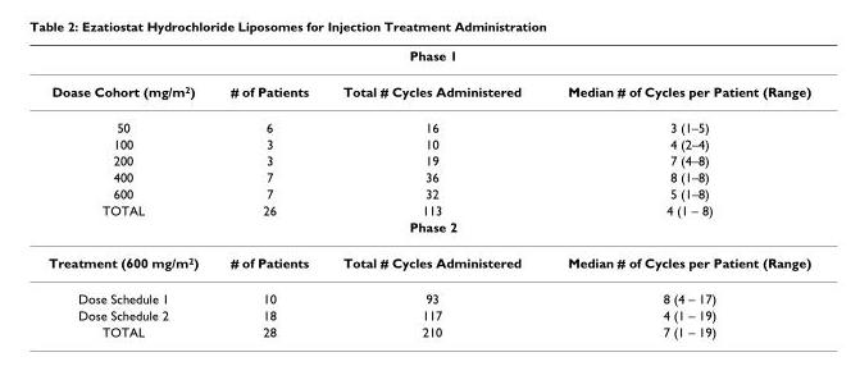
<table><thead><tr><td colspan="4">Phase 1</td></tr><tr><td>Doase Cohort (mg/m<sup>2</sup>)</td><td># of Patients</td><td>Total # Cycles Administered</td><td>Median # of Cycles per Patient (Range)</td></tr></thead><tbody><tr><td>50</td><td>6</td><td>16</td><td>3 (1–5)</td></tr><tr><td>100</td><td>3</td><td>10</td><td>4 (2–4)</td></tr><tr><td>200</td><td>3</td><td>19</td><td>7 (4–8)</td></tr><tr><td>400</td><td>7</td><td>36</td><td>8 (1–8)</td></tr><tr><td>600</td><td>7</td><td>32</td><td>5 (1–8)</td></tr><tr><td>TOTAL</td><td>26</td><td>113</td><td>4 (1 – 8)</td></tr><tr><td colspan="4">Phase 2</td></tr><tr><td>Treatment (600 mg/m<sup>2</sup>)</td><td># of Patients</td><td>Total # Cycles Administered</td><td>Median # of Cycles per Patient (Range)</td></tr><tr><td>Dose Schedule 1</td><td>10</td><td>93</td><td>8 (4 – 17)</td></tr><tr><td>Dose Schedule 2</td><td>18</td><td>117</td><td>4 (1 – 19)</td></tr><tr><td>TOTAL</td><td>28</td><td>210</td><td>7 (1 – 19)</td></tr></tbody></table>